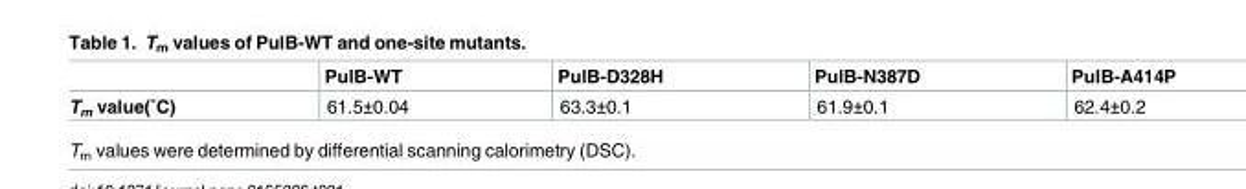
<table><thead><tr><td></td><td>PulB-WT</td><td>PulB-D328H</td><td>PulB-N387D</td><td>PulB-A414P</td></tr></thead><tbody><tr><td>Tm value(˚C)</td><td>61.5±0.04</td><td>63.3±0.1</td><td>61.9±0.1</td><td>62.4±0.2</td></tr></tbody></table>